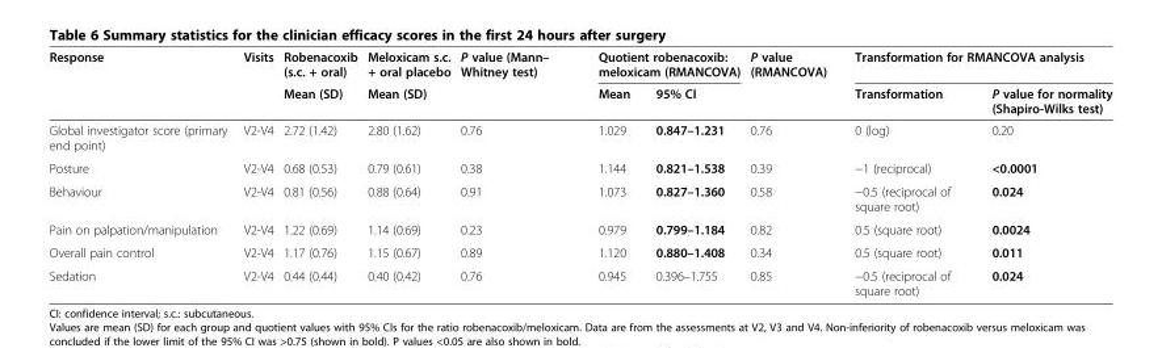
<table><thead><tr><td rowspan="2">Response</td><td rowspan="2">Visits</td><td rowspan="2">Robenacoxib (s.c. + oral) Mean (SD)</td><td rowspan="2">Meloxicam s.c. + oral placebo Mean (SD)</td><td rowspan="2">P value (Mann– Whitney test)</td><td colspan="2">Quotient robenacoxib: meloxicam (RMANCOVA)</td><td rowspan="2">P value (RMANCOVA)</td><td colspan="2">Transformation for RMANCOVA analysis</td></tr><tr><td>Mean</td><td>95% CI</td><td>Transformation</td><td>P value for normality (Shapiro-Wilks test)</td></tr></thead><tbody><tr><td>Global investigator score (primary end point)</td><td>V2-V4</td><td>2.72 (1.42)</td><td>2.80 (1.62)</td><td>0.76</td><td>1.029</td><td>0.847–1.231</td><td>0.76</td><td>0 (log)</td><td>0.20</td></tr><tr><td>Posture</td><td>V2-V4</td><td>0.68 (0.53)</td><td>0.79 (0.61)</td><td>0.38</td><td>1.144</td><td>0.821–1.538</td><td>0.39</td><td>−1 (reciprocal)</td><td>&lt;0.0001</td></tr><tr><td>Behaviour</td><td>V2-V4</td><td>0.81 (0.56)</td><td>0.88 (0.64)</td><td>0.91</td><td>1.073</td><td>0.827–1.360</td><td>0.58</td><td>−0.5 (reciprocal of square root)</td><td>0.024</td></tr><tr><td>Pain on palpation/manipulation</td><td>V2-V4</td><td>1.22 (0.69)</td><td>1.14 (0.69)</td><td>0.23</td><td>0.979</td><td>0.799–1.184</td><td>0.82</td><td>0.5 (square root)</td><td>0.0024</td></tr><tr><td>Overall pain control</td><td>V2-V4</td><td>1.17 (0.76)</td><td>1.15 (0.67)</td><td>0.89</td><td>1.120</td><td>0.880–1.408</td><td>0.34</td><td>0.5 (square root)</td><td>0.011</td></tr><tr><td>Sedation</td><td>V2-V4</td><td>0.44 (0.44)</td><td>0.40 (0.42)</td><td>0.76</td><td>0.945</td><td>0.396–1.755</td><td>0.85</td><td>−0.5 (reciprocal of square root)</td><td>0.024</td></tr></tbody></table>